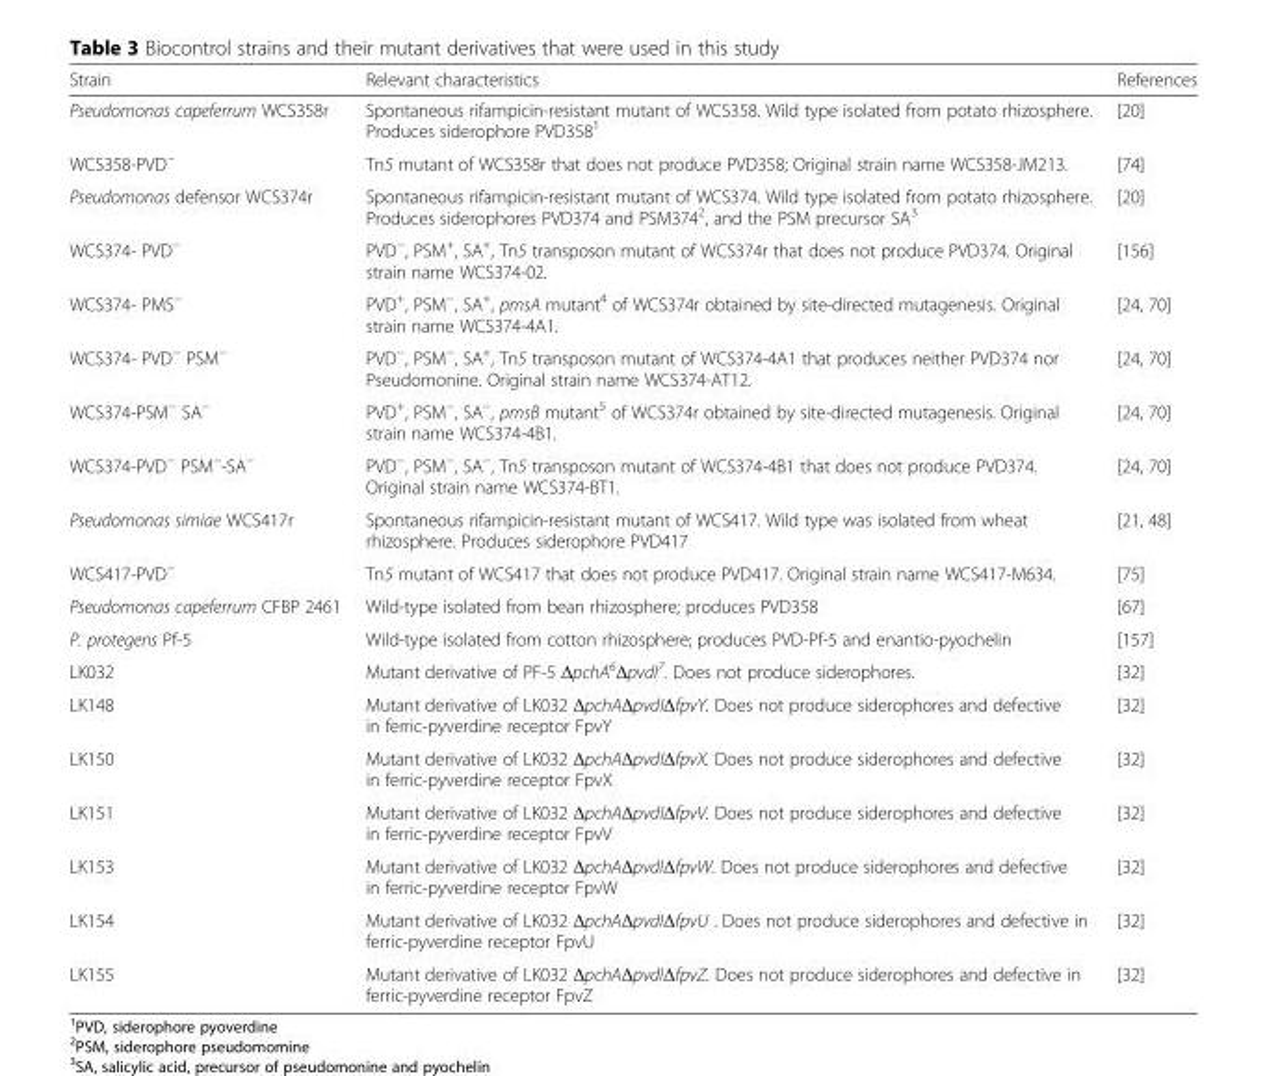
<table><thead><tr><td>Strain</td><td>Relevant characteristics</td><td>References</td></tr></thead><tbody><tr><td>Pseudomonas capeferrum WCS358r</td><td>Spontaneous rifampicin-resistant mutant of WCS358. Wild type isolated from potato rhizosphere. Produces siderophore PVD358<sup>1</sup></td><td>[20]</td></tr><tr><td>WCS358-PVD<sup>−</sup></td><td>Tn5 mutant of WCS358r that does not produce PVD358; Original strain name WCS358-JM213.</td><td>[74]</td></tr><tr><td>Pseudomonas defensor WCS374r</td><td>Spontaneous rifampicin-resistant mutant of WCS374. Wild type isolated from potato rhizosphere. Produces siderophores PVD374 and PSM374<sup>2</sup>, and the PSM precursor SA<sup>3</sup></td><td>[20]</td></tr><tr><td>WCS374- PVD<sup>−</sup></td><td>PVD<sup>−</sup>, PSM<sup>+</sup>, SA<sup>+</sup>, Tn5 transposon mutant of WCS374r that does not produce PVD374. Original strain name WCS374-02.</td><td>[156]</td></tr><tr><td>WCS374- PMS<sup>−</sup></td><td>PVD<sup>+</sup>, PSM<sup>−</sup>, SA<sup>+</sup>, pmsA mutant<sup>4</sup> of WCS374r obtained by site-directed mutagenesis. Original strain name WCS374-4A1.</td><td>[24, 70]</td></tr><tr><td>WCS374- PVD<sup>−</sup> PSM<sup>−</sup></td><td>PVD<sup>−</sup>, PSM<sup>−</sup>, SA<sup>+</sup>, Tn5 transposon mutant of WCS374-4A1 that produces neither PVD374 nor Pseudomonine. Original strain name WCS374-AT12.</td><td>[24, 70]</td></tr><tr><td>WCS374-PSM<sup>−</sup> SA<sup>−</sup></td><td>PVD<sup>+</sup>, PSM<sup>−</sup>, SA<sup>−</sup>, pmsB mutant<sup>5</sup> of WCS374r obtained by site-directed mutagenesis. Original strain name WCS374-4B1.</td><td>[24, 70]</td></tr><tr><td>WCS374-PVD<sup>−</sup> PSM<sup>−</sup>-SA<sup>−</sup></td><td>PVD<sup>−</sup>, PSM<sup>−</sup>, SA<sup>−</sup>, Tn5 transposon mutant of WCS374-4B1 that does not produce PVD374. Original strain name WCS374-BT1.</td><td>[24, 70]</td></tr><tr><td>Pseudomonas simiae WCS417r</td><td>Spontaneous rifampicin-resistant mutant of WCS417. Wild type was isolated from wheat rhizosphere. Produces siderophore PVD417</td><td>[21, 48]</td></tr><tr><td>WCS417-PVD<sup>−</sup></td><td>Tn5 mutant of WCS417 that does not produce PVD417. Original strain name WCS417-M634.</td><td>[75]</td></tr><tr><td>Pseudomonas capeferrum CFBP 2461</td><td>Wild-type isolated from bean rhizosphere; produces PVD358</td><td>[67]</td></tr><tr><td>P. protegens Pf-5</td><td>Wild-type isolated from cotton rhizosphere; produces PVD-Pf-5 and enantio-pyochelin</td><td>[157]</td></tr><tr><td>LK032</td><td>Mutant derivative of PF-5 ΔpchA<sup>6</sup>ΔpvdI<sup>7</sup>. Does not produce siderophores.</td><td>[32]</td></tr><tr><td>LK148</td><td>Mutant derivative of LK032 ΔpchAΔpvdIΔfpvY. Does not produce siderophores and defective in ferric-pyverdine receptor FpvY</td><td>[32]</td></tr><tr><td>LK150</td><td>Mutant derivative of LK032 ΔpchAΔpvdIΔfpvX. Does not produce siderophores and defective in ferric-pyverdine receptor FpvX</td><td>[32]</td></tr><tr><td>LK151</td><td>Mutant derivative of LK032 ΔpchAΔpvdIΔfpvV. Does not produce siderophores and defective in ferric-pyverdine receptor FpvV</td><td>[32]</td></tr><tr><td>LK153</td><td>Mutant derivative of LK032 ΔpchAΔpvdIΔfpvW. Does not produce siderophores and defective in ferric-pyverdine receptor FpvW</td><td>[32]</td></tr><tr><td>LK154</td><td>Mutant derivative of LK032 ΔpchAΔpvdIΔfpvU . Does not produce siderophores and defective in ferric-pyverdine receptor FpvU</td><td>[32]</td></tr><tr><td>LK155</td><td>Mutant derivative of LK032 ΔpchAΔpvdIΔfpvZ. Does not produce siderophores and defective in ferric-pyverdine receptor FpvZ</td><td>[32]</td></tr></tbody></table>